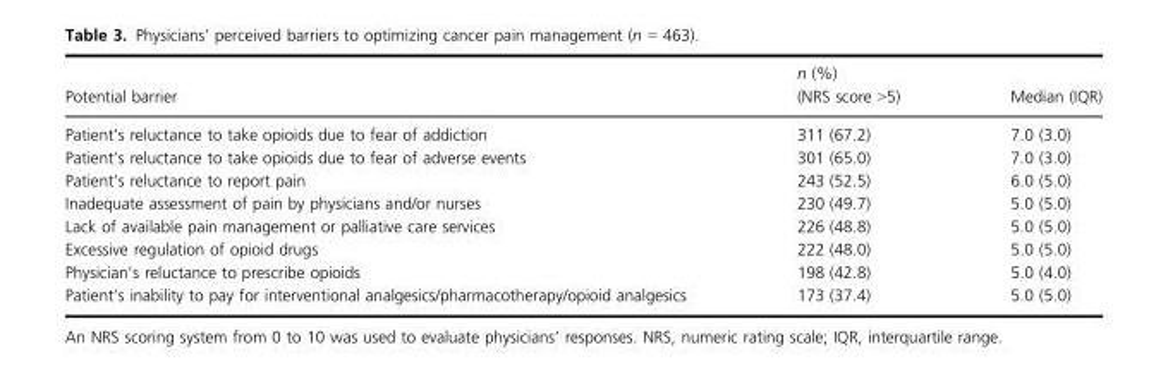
<table><thead><tr><td>Potential barrier</td><td>n (%) (NRS score &gt;5)</td><td>Median (IQR)</td></tr></thead><tbody><tr><td>Patient’s reluctance to take opioids due to fear of addiction</td><td>311 (67.2)</td><td>7.0 (3.0)</td></tr><tr><td>Patient’s reluctance to take opioids due to fear of adverse events</td><td>301 (65.0)</td><td>7.0 (3.0)</td></tr><tr><td>Patient’s reluctance to report pain</td><td>243 (52.5)</td><td>6.0 (5.0)</td></tr><tr><td>Inadequate assessment of pain by physicians and/or nurses</td><td>230 (49.7)</td><td>5.0 (5.0)</td></tr><tr><td>Lack of available pain management or palliative care services</td><td>226 (48.8)</td><td>5.0 (5.0)</td></tr><tr><td>Excessive regulation of opioid drugs</td><td>222 (48.0)</td><td>5.0 (5.0)</td></tr><tr><td>Physician’s reluctance to prescribe opioids</td><td>198 (42.8)</td><td>5.0 (4.0)</td></tr><tr><td>Patient’s inability to pay for interventional analgesics/pharmacotherapy/opioid analgesics</td><td>173 (37.4)</td><td>5.0 (5.0)</td></tr></tbody></table>